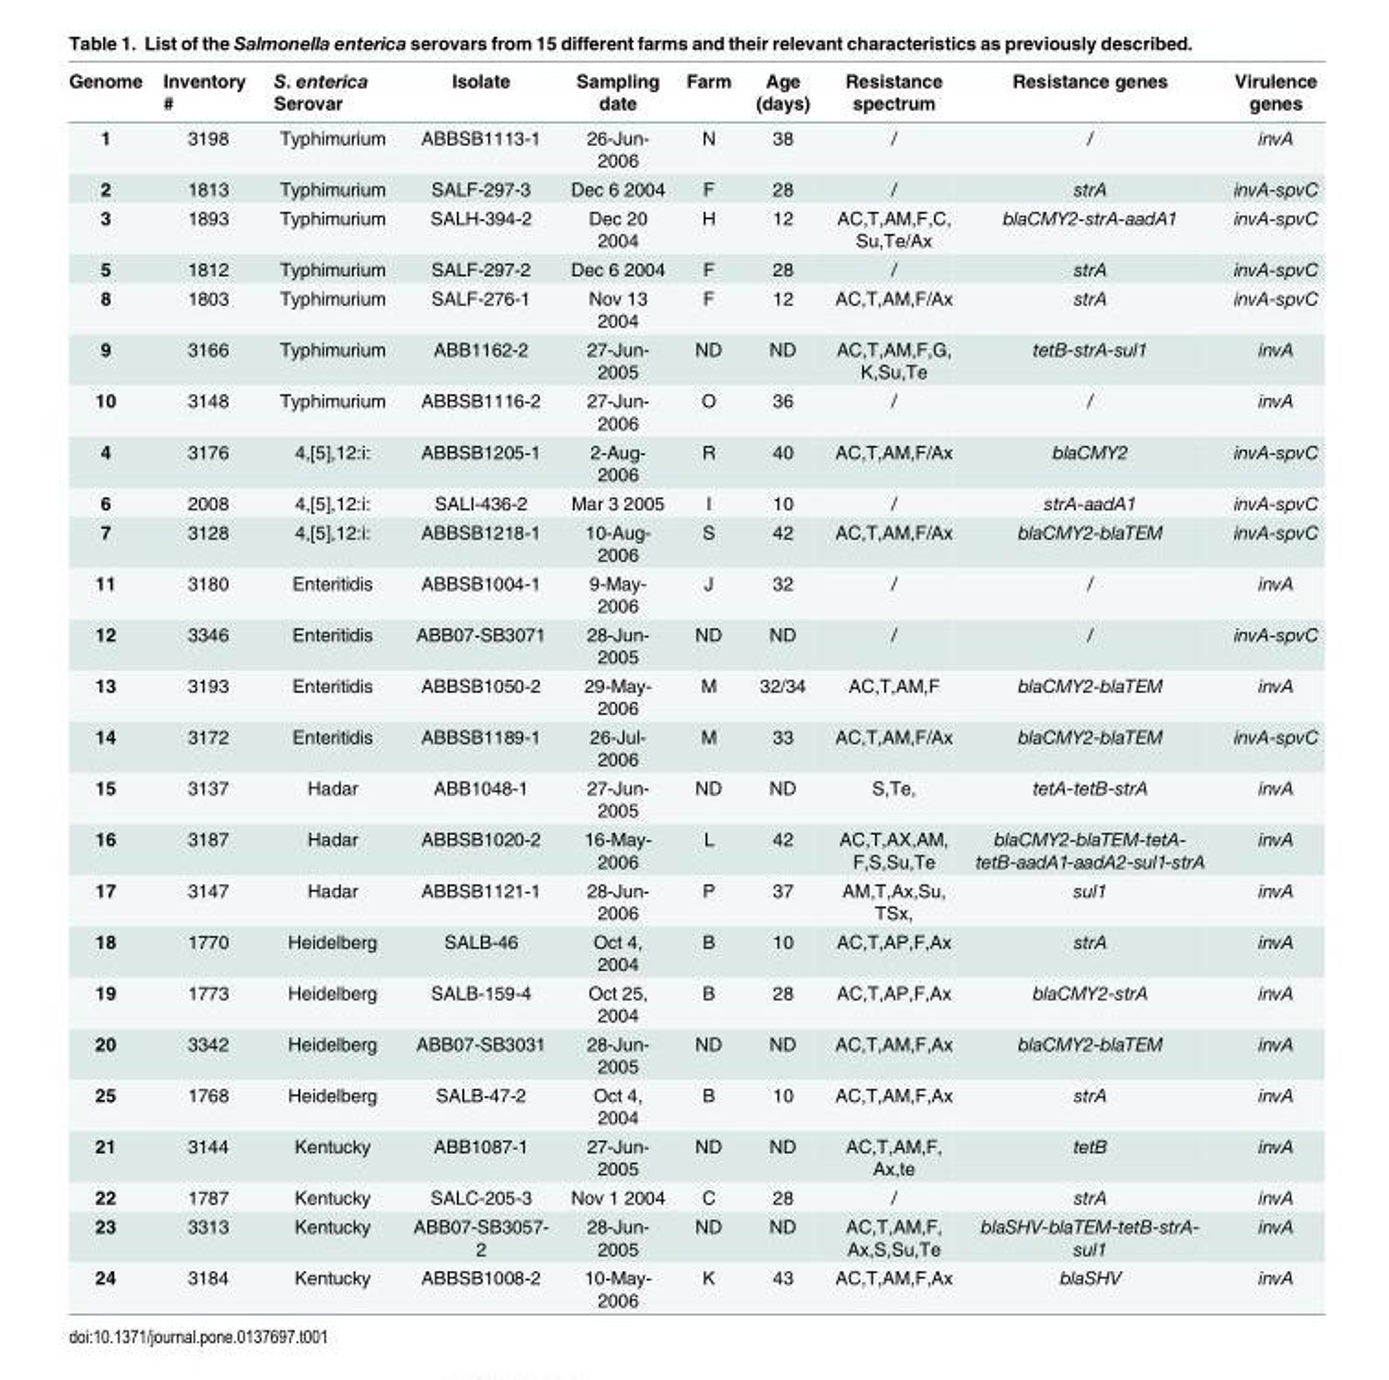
<table><thead><tr><td>Genome</td><td>Inventory #</td><td>S. enterica Serovar</td><td>Isolate</td><td>Sampling date</td><td>Farm</td><td>Age (days)</td><td>Resistance spectrum</td><td>Resistance genes</td><td>Virulence genes</td></tr></thead><tbody><tr><td>1</td><td>3198</td><td>Typhimurium</td><td>ABBSB1113-1</td><td>26-Jun- 2006</td><td>N</td><td>38</td><td>/</td><td>/</td><td>invA</td></tr><tr><td>2</td><td>1813</td><td>Typhimurium</td><td>SALF-297-3</td><td>Dec 6 2004</td><td>F</td><td>28</td><td>/</td><td>strA</td><td>invA-spvC</td></tr><tr><td>3</td><td>1893</td><td>Typhimurium</td><td>SALH-394-2</td><td>Dec 20 2004</td><td>H</td><td>12</td><td>AC,T,AM,F,C, Su,Te/Ax</td><td>blaCMY2-strA-aadA1</td><td>invA-spvC</td></tr><tr><td>5</td><td>1812</td><td>Typhimurium</td><td>SALF-297-2</td><td>Dec 6 2004</td><td>F</td><td>28</td><td>/</td><td>strA</td><td>invA-spvC</td></tr><tr><td>8</td><td>1803</td><td>Typhimurium</td><td>SALF-276-1</td><td>Nov 13 2004</td><td>F</td><td>12</td><td>AC,T,AM,F/Ax</td><td>strA</td><td>invA-spvC</td></tr><tr><td>9</td><td>3166</td><td>Typhimurium</td><td>ABB1162-2</td><td>27-Jun- 2005</td><td>ND</td><td>ND</td><td>AC,T,AM,F,G, K,Su,Te</td><td>tetB-strA-sul1</td><td>invA</td></tr><tr><td>10</td><td>3148</td><td>Typhimurium</td><td>ABBSB1116-2</td><td>27-Jun- 2006</td><td>O</td><td>36</td><td>/</td><td>/</td><td>invA</td></tr><tr><td>4</td><td>3176</td><td>4,[5],12:i:</td><td>ABBSB1205-1</td><td>2-Aug- 2006</td><td>R</td><td>40</td><td>AC,T,AM,F/Ax</td><td>blaCMY2</td><td>invA-spvC</td></tr><tr><td>6</td><td>2008</td><td>4,[5],12:i:</td><td>SALI-436-2</td><td>Mar 3 2005</td><td>I</td><td>10</td><td>/</td><td>strA-aadA1</td><td>invA-spvC</td></tr><tr><td>7</td><td>3128</td><td>4,[5],12:i:</td><td>ABBSB1218-1</td><td>10-Aug- 2006</td><td>S</td><td>42</td><td>AC,T,AM,F/Ax</td><td>blaCMY2-blaTEM</td><td>invA-spvC</td></tr><tr><td>11</td><td>3180</td><td>Enteritidis</td><td>ABBSB1004-1</td><td>9-May- 2006</td><td>J</td><td>32</td><td>/</td><td>/</td><td>invA</td></tr><tr><td>12</td><td>3346</td><td>Enteritidis</td><td>ABB07-SB3071</td><td>28-Jun- 2005</td><td>ND</td><td>ND</td><td>/</td><td>/</td><td>invA-spvC</td></tr><tr><td>13</td><td>3193</td><td>Enteritidis</td><td>ABBSB1050-2</td><td>29-May- 2006</td><td>M</td><td>32/34</td><td>AC,T,AM,F</td><td>blaCMY2-blaTEM</td><td>invA</td></tr><tr><td>14</td><td>3172</td><td>Enteritidis</td><td>ABBSB1189-1</td><td>26-Jul- 2006</td><td>M</td><td>33</td><td>AC,T,AM,F/Ax</td><td>blaCMY2-blaTEM</td><td>invA-spvC</td></tr><tr><td>15</td><td>3137</td><td>Hadar</td><td>ABB1048-1</td><td>27-Jun- 2005</td><td>ND</td><td>ND</td><td>S,Te,</td><td>tetA-tetB-strA</td><td>invA</td></tr><tr><td>16</td><td>3187</td><td>Hadar</td><td>ABBSB1020-2</td><td>16-May- 2006</td><td>L</td><td>42</td><td>AC,T,AX,AM, F,S,Su,Te</td><td>blaCMY2-blaTEM-tetA- tetB-aadA1-aadA2-sul1-strA</td><td>invA</td></tr><tr><td>17</td><td>3147</td><td>Hadar</td><td>ABBSB1121-1</td><td>28-Jun- 2006</td><td>P</td><td>37</td><td>AM,T,Ax,Su, TSx,</td><td>sul1</td><td>invA</td></tr><tr><td>18</td><td>1770</td><td>Heidelberg</td><td>SALB-46</td><td>Oct 4, 2004</td><td>B</td><td>10</td><td>AC,T,AP,F,Ax</td><td>strA</td><td>invA</td></tr><tr><td>19</td><td>1773</td><td>Heidelberg</td><td>SALB-159-4</td><td>Oct 25, 2004</td><td>B</td><td>28</td><td>AC,T,AP,F,Ax</td><td>blaCMY2-strA</td><td>invA</td></tr><tr><td>20</td><td>3342</td><td>Heidelberg</td><td>ABB07-SB3031</td><td>28-Jun- 2005</td><td>ND</td><td>ND</td><td>AC,T,AM,F,Ax</td><td>blaCMY2-blaTEM</td><td>invA</td></tr><tr><td>25</td><td>1768</td><td>Heidelberg</td><td>SALB-47-2</td><td>Oct 4, 2004</td><td>B</td><td>10</td><td>AC,T,AM,F,Ax</td><td>strA</td><td>invA</td></tr><tr><td>21</td><td>3144</td><td>Kentucky</td><td>ABB1087-1</td><td>27-Jun- 2005</td><td>ND</td><td>ND</td><td>AC,T,AM,F, Ax,te</td><td>tetB</td><td>invA</td></tr><tr><td>22</td><td>1787</td><td>Kentucky</td><td>SALC-205-3</td><td>Nov 1 2004</td><td>C</td><td>28</td><td>/</td><td>strA</td><td>invA</td></tr><tr><td>23</td><td>3313</td><td>Kentucky</td><td>ABB07-SB3057- 2</td><td>28-Jun- 2005</td><td>ND</td><td>ND</td><td>AC,T,AM,F, Ax,S,Su,Te</td><td>blaSHV-blaTEM-tetB-strA- sul1</td><td>invA</td></tr><tr><td>24</td><td>3184</td><td>Kentucky</td><td>ABBSB1008-2</td><td>10-May- 2006</td><td>K</td><td>43</td><td>AC,T,AM,F,Ax</td><td>blaSHV</td><td>invA</td></tr></tbody></table>